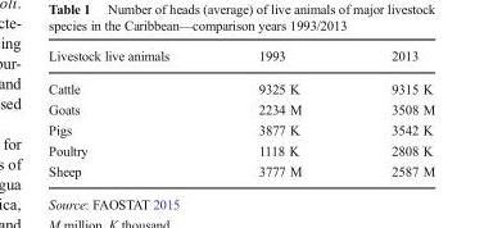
<table><thead><tr><td>Livestock live animals</td><td>1993</td><td>2013</td></tr></thead><tbody><tr><td>Cattle</td><td>9325 K</td><td>9315 K</td></tr><tr><td>Goats</td><td>2234 M</td><td>3508 M</td></tr><tr><td>Pigs</td><td>3877 K</td><td>3542 K</td></tr><tr><td>Poultry</td><td>1118 K</td><td>2808 K</td></tr><tr><td>Sheep</td><td>3777 M</td><td>2587 M</td></tr></tbody></table>